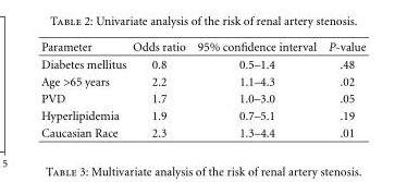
<table><thead><tr><td>Parameter</td><td>Odds ratio</td><td>95% confidence interval</td><td>P-value</td></tr></thead><tbody><tr><td>Diabetes mellitus</td><td>0.8</td><td>0.5–1.4</td><td>.48</td></tr><tr><td>Age &gt;65 years</td><td>2.2</td><td>1.1–4.3</td><td>.02</td></tr><tr><td>PVD</td><td>1.7</td><td>1.0–3.0</td><td>.05</td></tr><tr><td>Hyperlipidemia</td><td>1.9</td><td>0.7–5.1</td><td>.19</td></tr><tr><td>Caucasian Race</td><td>2.3</td><td>1.3–4.4</td><td>.01</td></tr></tbody></table>